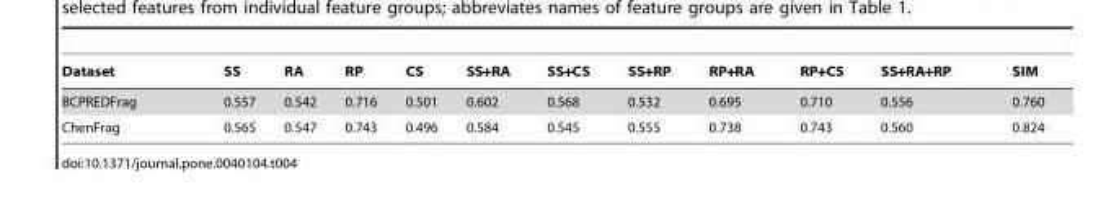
<table><thead><tr><td>Dataset</td><td>SS</td><td>RA</td><td>RP</td><td>CS</td><td>SS+RA</td><td>SS+CS</td><td>SS+RP</td><td>RP+RA</td><td>RP+CS</td><td>SS+RA+RP</td><td>SIM</td></tr></thead><tbody><tr><td>BCPREDFrag</td><td>0.557</td><td>0.542</td><td>0.716</td><td>0.501</td><td>0.602</td><td>0.568</td><td>0.532</td><td>0.695</td><td>0.710</td><td>0.556</td><td>0.760</td></tr><tr><td>ChenFrag</td><td>0.565</td><td>0.547</td><td>0.743</td><td>0.496</td><td>0.584</td><td>0.545</td><td>0.555</td><td>0.738</td><td>0.743</td><td>0.560</td><td>0.824</td></tr></tbody></table>